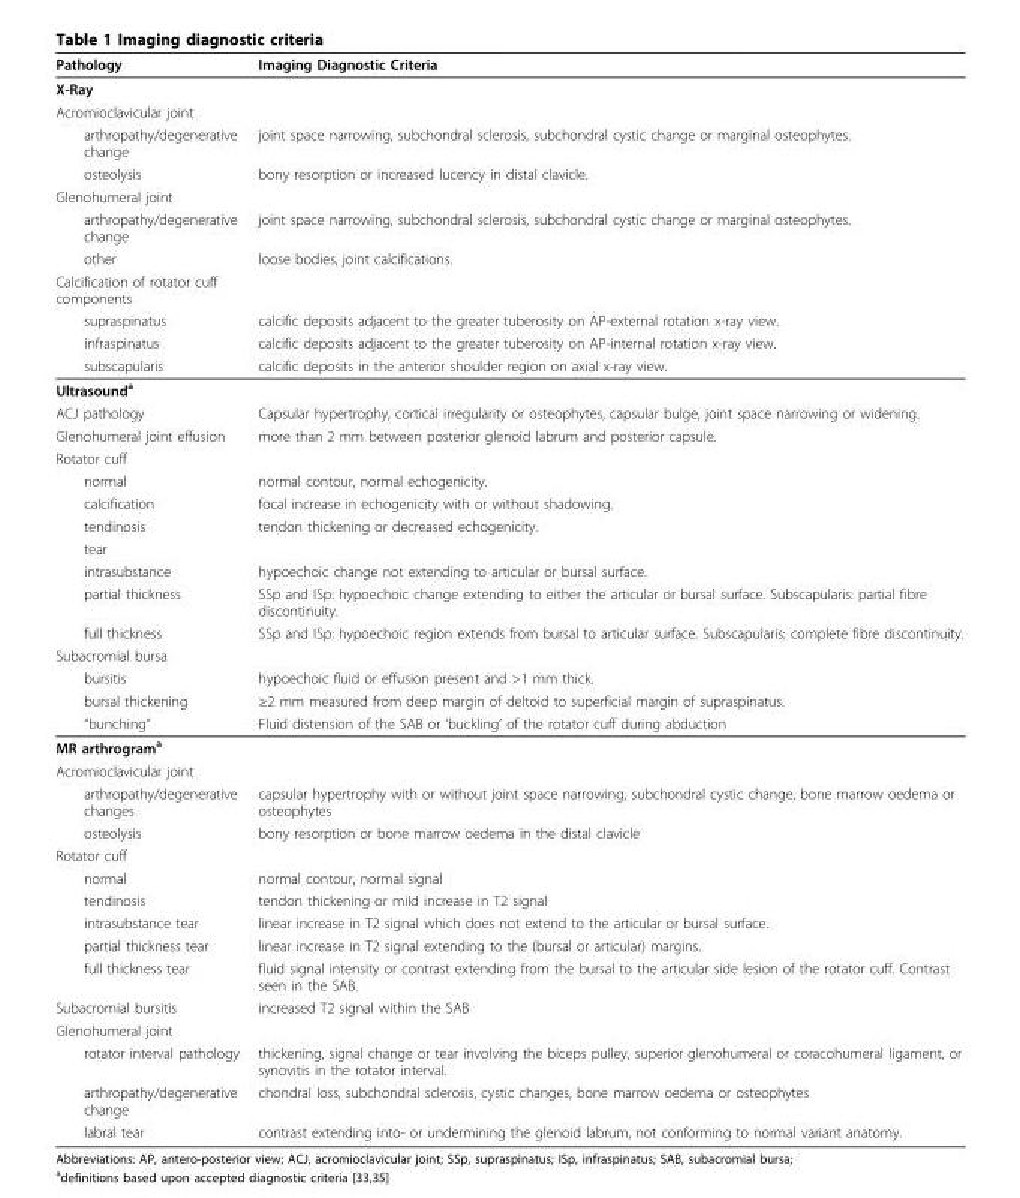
<table><thead><tr><td>Pathology</td><td>Imaging Diagnostic Criteria</td></tr></thead><tbody><tr><td colspan="2">X-Ray</td></tr><tr><td colspan="2">Acromioclavicular joint</td></tr><tr><td>arthropathy/degenerative change</td><td>joint space narrowing, subchondral sclerosis, subchondral cystic change or marginal osteophytes.</td></tr><tr><td>osteolysis</td><td>bony resorption or increased lucency in distal clavicle.</td></tr><tr><td colspan="2">Glenohumeral joint</td></tr><tr><td>arthropathy/degenerative change</td><td>joint space narrowing, subchondral sclerosis, subchondral cystic change or marginal osteophytes.</td></tr><tr><td>other</td><td>loose bodies, joint calcifications.</td></tr><tr><td colspan="2">Calcification of rotator cuff components</td></tr><tr><td>supraspinatus</td><td>calcific deposits adjacent to the greater tuberosity on AP-external rotation x-ray view.</td></tr><tr><td>infraspinatus</td><td>calcific deposits adjacent to the greater tuberosity on AP-internal rotation x-ray view.</td></tr><tr><td>subscapularis</td><td>calcific deposits in the anterior shoulder region on axial x-ray view.</td></tr><tr><td colspan="2">Ultrasound<sup>a</sup></td></tr><tr><td>ACJ pathology</td><td>Capsular hypertrophy, cortical irregularity or osteophytes, capsular bulge, joint space narrowing or widening.</td></tr><tr><td>Glenohumeral joint effusion</td><td>more than 2 mm between posterior glenoid labrum and posterior capsule.</td></tr><tr><td colspan="2">Rotator cuff</td></tr><tr><td>normal</td><td>normal contour, normal echogenicity.</td></tr><tr><td>calcification</td><td>focal increase in echogenicity with or without shadowing.</td></tr><tr><td>tendinosis</td><td>tendon thickening or decreased echogenicity.</td></tr><tr><td colspan="2">tear</td></tr><tr><td>intrasubstance</td><td>hypoechoic change not extending to articular or bursal surface.</td></tr><tr><td>partial thickness</td><td>SSp and ISp: hypoechoic change extending to either the articular or bursal surface. Subscapularis: partial fibre discontinuity.</td></tr><tr><td>full thickness</td><td>SSp and ISp: hypoechoic region extends from bursal to articular surface. Subscapularis: complete fibre discontinuity.</td></tr><tr><td colspan="2">Subacromial bursa</td></tr><tr><td>bursitis</td><td>hypoechoic fluid or effusion present and &gt;1 mm thick.</td></tr><tr><td>bursal thickening</td><td>≥2 mm measured from deep margin of deltoid to superficial margin of supraspinatus.</td></tr><tr><td>“bunching”</td><td>Fluid distension of the SAB or ‘buckling’ of the rotator cuff during abduction</td></tr><tr><td colspan="2">MR arthrogram<sup>a</sup></td></tr><tr><td colspan="2">Acromioclavicular joint</td></tr><tr><td>arthropathy/degenerative changes</td><td>capsular hypertrophy with or without joint space narrowing, subchondral cystic change, bone marrow oedema or osteophytes</td></tr><tr><td>osteolysis</td><td>bony resorption or bone marrow oedema in the distal clavicle</td></tr><tr><td colspan="2">Rotator cuff</td></tr><tr><td>normal</td><td>normal contour, normal signal</td></tr><tr><td>tendinosis</td><td>tendon thickening or mild increase in T2 signal</td></tr><tr><td>intrasubstance tear</td><td>linear increase in T2 signal which does not extend to the articular or bursal surface.</td></tr><tr><td>partial thickness tear</td><td>linear increase in T2 signal extending to the (bursal or articular) margins.</td></tr><tr><td>full thickness tear</td><td>fluid signal intensity or contrast extending from the bursal to the articular side lesion of the rotator cuff. Contrast seen in the SAB.</td></tr><tr><td>Subacromial bursitis</td><td>increased T2 signal within the SAB</td></tr><tr><td colspan="2">Glenohumeral joint</td></tr><tr><td>rotator interval pathology</td><td>thickening, signal change or tear involving the biceps pulley, superior glenohumeral or coracohumeral ligament, or synovitis in the rotator interval.</td></tr><tr><td>arthropathy/degenerative change</td><td>chondral loss, subchondral sclerosis, cystic changes, bone marrow oedema or osteophytes</td></tr><tr><td>labral tear</td><td>contrast extending into- or undermining the glenoid labrum, not conforming to normal variant anatomy.</td></tr></tbody></table>